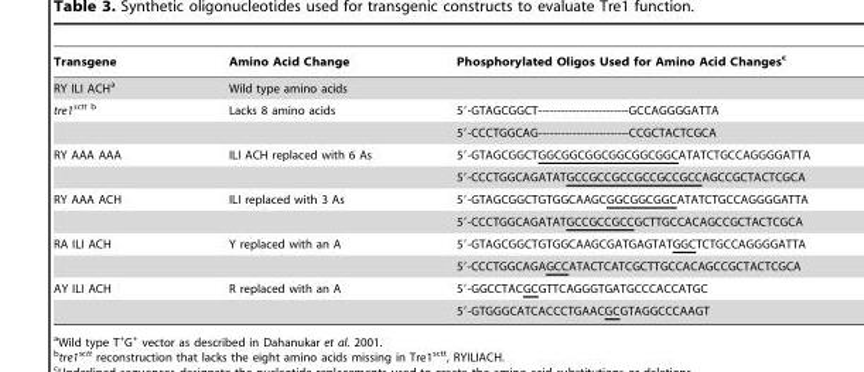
<table><thead><tr><td>Transgene</td><td>Amino Acid Change</td><td>Phosphorylated Oligos Used for Amino Acid Changes<sup>c</sup></td></tr></thead><tbody><tr><td>RY ILI ACH<sup>a</sup></td><td>Wild type amino acids</td><td></td></tr><tr><td rowspan="2">tre1<sup>sctt</sup> b</td><td>Lacks 8 amino acids</td><td>5′-GTAGCGGCT------------------------GCCAGGGGATTA</td></tr><tr><td></td><td>5′-CCCTGGCAG------------------------CCGCTACTCGCA</td></tr><tr><td rowspan="2">RY AAA AAA</td><td>ILI ACH replaced with 6 As</td><td>5′-GTAGCGGCTGGCGGCGGCGGCGGCGGCATATCTGCCAGGGGATTA</td></tr><tr><td></td><td>5′-CCCTGGCAGATATGCCGCCGCCGCCGCCGCCAGCCGCTACTCGCA</td></tr><tr><td rowspan="2">RY AAA ACH</td><td>ILI replaced with 3 As</td><td>5′-GTAGCGGCTGTGGCAAGCGGCGGCGGCATATCTGCCAGGGGATTA</td></tr><tr><td></td><td>5′-CCCTGGCAGATATGCCGCCGCCGCTTGCCACAGCCGCTACTCGCA</td></tr><tr><td rowspan="2">RA ILI ACH</td><td>Y replaced with an A</td><td>5′-GTAGCGGCTGTGGCAAGCGATGAGTATGGCTCTGCCAGGGGATTA</td></tr><tr><td></td><td>5′-CCCTGGCAGAGCCATACTCATCGCTTGCCACAGCCGCTACTCGCA</td></tr><tr><td rowspan="2">AY ILI ACH</td><td>R replaced with an A</td><td>5′-GGCCTACGCGTTCAGGGTGATGCCCACCATGC</td></tr><tr><td></td><td>5′-GTGGGCATCACCCTGAACGCGTAGGCCCAAGT</td></tr></tbody></table>